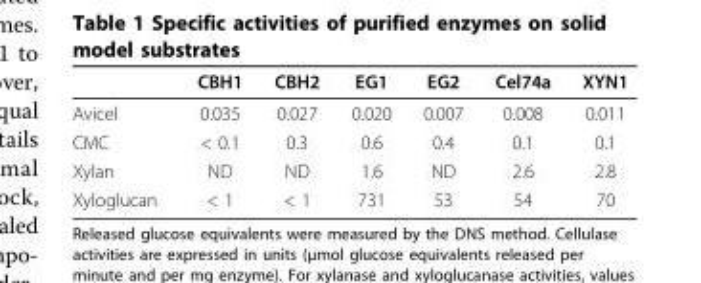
<table><thead><tr><td></td><td>CBH1</td><td>CBH2</td><td>EG1</td><td>EG2</td><td>Cel74a</td><td>XYN1</td></tr></thead><tbody><tr><td>Avicel</td><td>0.035</td><td>0.027</td><td>0.020</td><td>0.007</td><td>0.008</td><td>0.011</td></tr><tr><td>CMC</td><td>&lt; 0.1</td><td>0.3</td><td>0.6</td><td>0.4</td><td>0.1</td><td>0.1</td></tr><tr><td>Xylan</td><td>ND</td><td>ND</td><td>1.6</td><td>ND</td><td>2.6</td><td>2.8</td></tr><tr><td>Xyloglucan</td><td>&lt; 1</td><td>&lt; 1</td><td>731</td><td>53</td><td>54</td><td>70</td></tr></tbody></table>